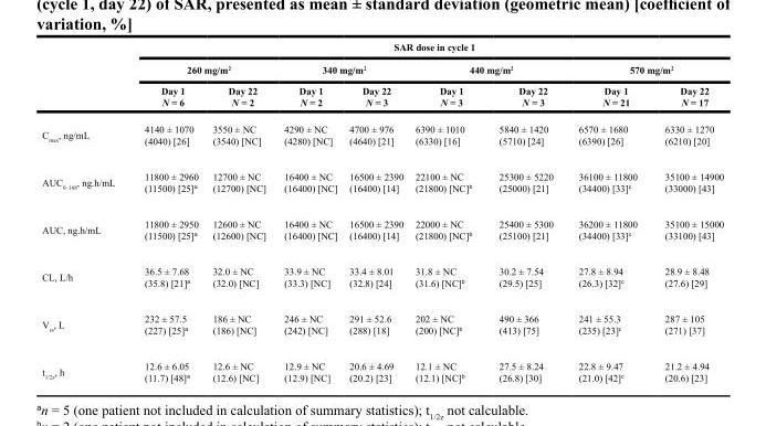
<table><thead><tr><td rowspan="3"></td><td colspan="8">SAR dose in cycle 1</td></tr><tr><td colspan="2">260 mg/m<sup>2</sup></td><td colspan="2">340 mg/m<sup>2</sup></td><td colspan="2">440 mg/m<sup>2</sup></td><td colspan="2">570 mg/m<sup>2</sup></td></tr><tr><td>Day 1 N = 6</td><td>Day 22 N = 2</td><td>Day 1 N = 2</td><td>Day 22 N = 3</td><td>Day 1 N = 3</td><td>Day 22 N = 3</td><td>Day 1 N = 21</td><td>Day 22 N = 17</td></tr></thead><tbody><tr><td>C<sub>max</sub>, ng/mL</td><td>4140 ± 1070 (4040) [26]</td><td>3550 ± NC (3540) [NC]</td><td>4290 ± NC (4280) [NC]</td><td>4700 ± 976 (4640) [21]</td><td>6390 ± 1010 (6330) [16]</td><td>5840 ± 1420 (5710) [24]</td><td>6570 ± 1680 (6390) [26]</td><td>6330 ± 1270 (6210) [20]</td></tr><tr><td>AUC<sub>0–168</sub>, ng.h/mL</td><td>11800 ± 2960 (11500) [25]<sup>a</sup></td><td>12700 ± NC (12700) [NC]</td><td>16400 ± NC (16400) [NC]</td><td>16500 ± 2390 (16400) [14]</td><td>22100 ± NC (21800) [NC]<sup>b</sup></td><td>25300 ± 5220 (25000) [21]</td><td>36100 ± 11800 (34400) [33]<sup>c</sup></td><td>35100 ± 14900 (33000) [43]</td></tr><tr><td>AUC, ng.h/mL</td><td>11800 ± 2950 (11500) [25]<sup>a</sup></td><td>12600 ± NC (12600) [NC]</td><td>16400 ± NC (16400) [NC]</td><td>16500 ± 2390 (16400) [14]</td><td>22000 ± NC (21800) [NC]<sup>b</sup></td><td>25400 ± 5300 (25100) [21]</td><td>36200 ± 11800 (34400) [33]<sup>c</sup></td><td>35100 ± 15000 (33100) [43]</td></tr><tr><td>CL, L/h</td><td>36.5 ± 7.68 (35.8) [21]<sup>a</sup></td><td>32.0 ± NC (32.0) [NC]</td><td>33.9 ± NC (33.3) [NC]</td><td>33.4 ± 8.01 (32.8) [24]</td><td>31.8 ± NC (31.6) [NC]<sup>b</sup></td><td>30.2 ± 7.54 (29.5) [25]</td><td>27.8 ± 8.94 (26.3) [32]<sup>c</sup></td><td>28.9 ± 8.48 (27.6) [29]</td></tr><tr><td>V<sub>ss</sub>, L</td><td>232 ± 57.5 (227) [25]<sup>a</sup></td><td>186 ± NC (186) [NC]</td><td>246 ± NC (242) [NC]</td><td>291 ± 52.6 (288) [18]</td><td>202 ± NC (200) [NC]<sup>b</sup></td><td>490 ± 366 (413) [75]</td><td>241 ± 55.3 (235) [23]<sup>c</sup></td><td>287 ± 105 (271) [37]</td></tr><tr><td>t<sub>1/2z</sub>, h</td><td>12.6 ± 6.05 (11.7) [48]<sup>a</sup></td><td>12.6 ± NC (12.6) [NC]</td><td>12.9 ± NC (12.9) [NC]</td><td>20.6 ± 4.69 (20.2) [23]</td><td>12.1 ± NC (12.1) [NC]<sup>b</sup></td><td>27.5 ± 8.24 (26.8) [30]</td><td>22.8 ± 9.47 (21.0) [42]<sup>c</sup></td><td>21.2 ± 4.94 (20.6) [23]</td></tr></tbody></table>